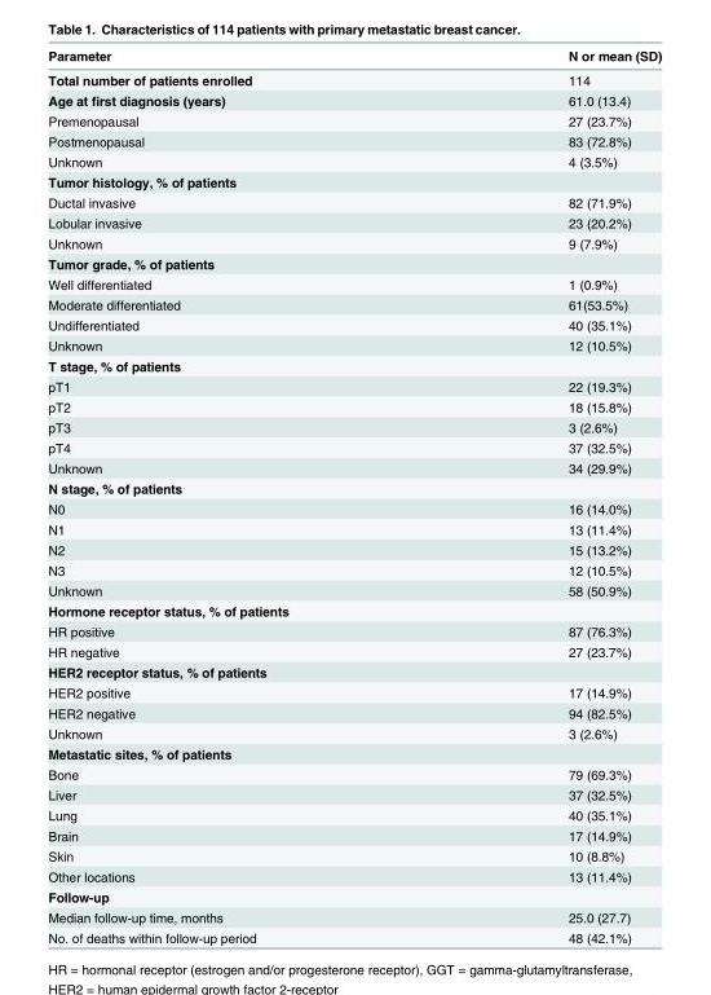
<table><thead><tr><td>Parameter</td><td>N or mean (SD)</td></tr></thead><tbody><tr><td>Total number of patients enrolled</td><td>114</td></tr><tr><td>Age at first diagnosis (years)</td><td>61.0 (13.4)</td></tr><tr><td>Premenopausal</td><td>27 (23.7%)</td></tr><tr><td>Postmenopausal</td><td>83 (72.8%)</td></tr><tr><td>Unknown</td><td>4 (3.5%)</td></tr><tr><td colspan="2">Tumor histology, % of patients</td></tr><tr><td>Ductal invasive</td><td>82 (71.9%)</td></tr><tr><td>Lobular invasive</td><td>23 (20.2%)</td></tr><tr><td>Unknown</td><td>9 (7.9%)</td></tr><tr><td colspan="2">Tumor grade, % of patients</td></tr><tr><td>Well differentiated</td><td>1 (0.9%)</td></tr><tr><td>Moderate differentiated</td><td>61(53.5%)</td></tr><tr><td>Undifferentiated</td><td>40 (35.1%)</td></tr><tr><td>Unknown</td><td>12 (10.5%)</td></tr><tr><td colspan="2">T stage, % of patients</td></tr><tr><td>pT1</td><td>22 (19.3%)</td></tr><tr><td>pT2</td><td>18 (15.8%)</td></tr><tr><td>pT3</td><td>3 (2.6%)</td></tr><tr><td>pT4</td><td>37 (32.5%)</td></tr><tr><td>Unknown</td><td>34 (29.9%)</td></tr><tr><td colspan="2">N stage, % of patients</td></tr><tr><td>N0</td><td>16 (14.0%)</td></tr><tr><td>N1</td><td>13 (11.4%)</td></tr><tr><td>N2</td><td>15 (13.2%)</td></tr><tr><td>N3</td><td>12 (10.5%)</td></tr><tr><td>Unknown</td><td>58 (50.9%)</td></tr><tr><td colspan="2">Hormone receptor status, % of patients</td></tr><tr><td>HR positive</td><td>87 (76.3%)</td></tr><tr><td>HR negative</td><td>27 (23.7%)</td></tr><tr><td colspan="2">HER2 receptor status, % of patients</td></tr><tr><td>HER2 positive</td><td>17 (14.9%)</td></tr><tr><td>HER2 negative</td><td>94 (82.5%)</td></tr><tr><td>Unknown</td><td>3 (2.6%)</td></tr><tr><td colspan="2">Metastatic sites, % of patients</td></tr><tr><td>Bone</td><td>79 (69.3%)</td></tr><tr><td>Liver</td><td>37 (32.5%)</td></tr><tr><td>Lung</td><td>40 (35.1%)</td></tr><tr><td>Brain</td><td>17 (14.9%)</td></tr><tr><td>Skin</td><td>10 (8.8%)</td></tr><tr><td>Other locations</td><td>13 (11.4%)</td></tr><tr><td colspan="2">Follow-up</td></tr><tr><td>Median follow-up time, months</td><td>25.0 (27.7)</td></tr><tr><td>No. of deaths within follow-up period</td><td>48 (42.1%)</td></tr></tbody></table>